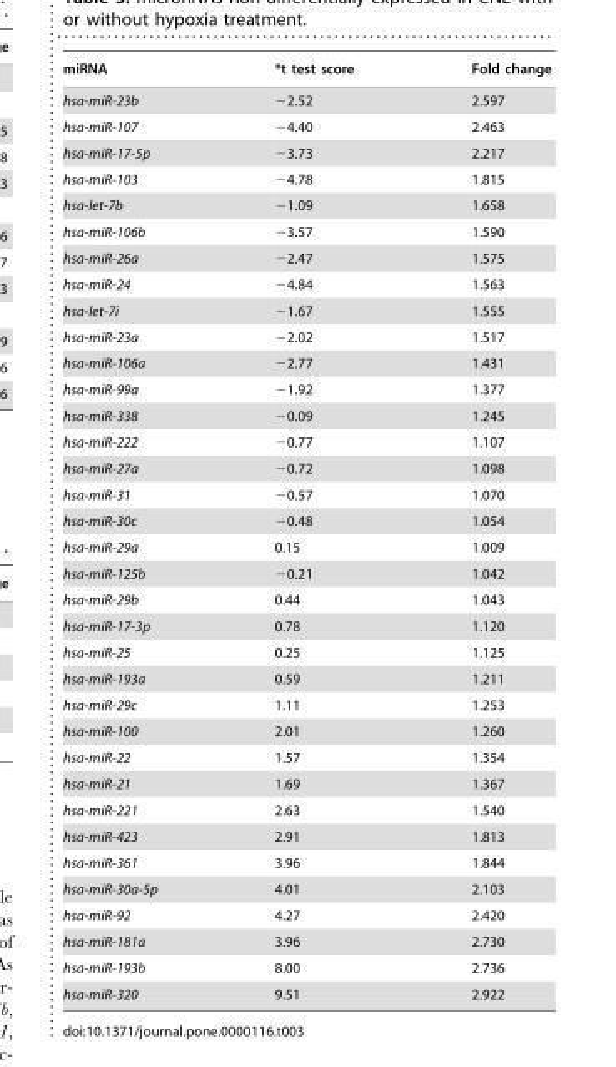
<table><thead><tr><td>miRNA</td><td>*t test score</td><td>Fold change</td></tr></thead><tbody><tr><td>hsa-miR-23b</td><td>−2.52</td><td>2.597</td></tr><tr><td>hsa-miR-107</td><td>−4.40</td><td>2.463</td></tr><tr><td>hsa-miR-17-5p</td><td>−3.73</td><td>2.217</td></tr><tr><td>hsa-miR-103</td><td>−4.78</td><td>1.815</td></tr><tr><td>hsa-let-7b</td><td>−1.09</td><td>1.658</td></tr><tr><td>hsa-miR-106b</td><td>−3.57</td><td>1.590</td></tr><tr><td>hsa-miR-26a</td><td>−2.47</td><td>1.575</td></tr><tr><td>hsa-miR-24</td><td>−4.84</td><td>1.563</td></tr><tr><td>hsa-let-7i</td><td>−1.67</td><td>1.555</td></tr><tr><td>hsa-miR-23a</td><td>−2.02</td><td>1.517</td></tr><tr><td>hsa-miR-106a</td><td>−2.77</td><td>1.431</td></tr><tr><td>hsa-miR-99a</td><td>−1.92</td><td>1.377</td></tr><tr><td>hsa-miR-338</td><td>−0.09</td><td>1.245</td></tr><tr><td>hsa-miR-222</td><td>−0.77</td><td>1.107</td></tr><tr><td>hsa-miR-27a</td><td>−0.72</td><td>1.098</td></tr><tr><td>hsa-miR-31</td><td>−0.57</td><td>1.070</td></tr><tr><td>hsa-miR-30c</td><td>−0.48</td><td>1.054</td></tr><tr><td>hsa-miR-29a</td><td>0.15</td><td>1.009</td></tr><tr><td>hsa-miR-125b</td><td>−0.21</td><td>1.042</td></tr><tr><td>hsa-miR-29b</td><td>0.44</td><td>1.043</td></tr><tr><td>hsa-miR-17-3p</td><td>0.78</td><td>1.120</td></tr><tr><td>hsa-miR-25</td><td>0.25</td><td>1.125</td></tr><tr><td>hsa-miR-193a</td><td>0.59</td><td>1.211</td></tr><tr><td>hsa-miR-29c</td><td>1.11</td><td>1.253</td></tr><tr><td>hsa-miR-100</td><td>2.01</td><td>1.260</td></tr><tr><td>hsa-miR-22</td><td>1.57</td><td>1.354</td></tr><tr><td>hsa-miR-21</td><td>1.69</td><td>1.367</td></tr><tr><td>hsa-miR-221</td><td>2.63</td><td>1.540</td></tr><tr><td>hsa-miR-423</td><td>2.91</td><td>1.813</td></tr><tr><td>hsa-miR-361</td><td>3.96</td><td>1.844</td></tr><tr><td>hsa-miR-30a-5p</td><td>4.01</td><td>2.103</td></tr><tr><td>hsa-miR-92</td><td>4.27</td><td>2.420</td></tr><tr><td>hsa-miR-181a</td><td>3.96</td><td>2.730</td></tr><tr><td>hsa-miR-193b</td><td>8.00</td><td>2.736</td></tr><tr><td>hsa-miR-320</td><td>9.51</td><td>2.922</td></tr></tbody></table>